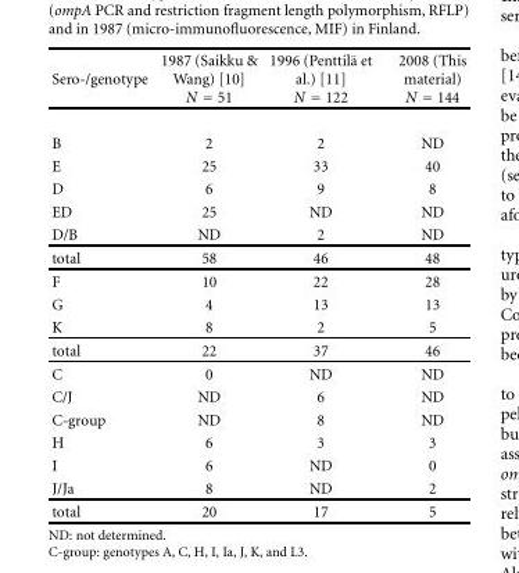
<table><thead><tr><td>Sero-/genotype</td><td>1987 (Saikku &amp; Wang) [10] N = 51</td><td>1996 (Penttil¨a et al.) [11] N = 122</td><td>2008 (This material) N = 144</td></tr></thead><tbody><tr><td>B</td><td>2</td><td>2</td><td>ND</td></tr><tr><td>E</td><td>25</td><td>33</td><td>40</td></tr><tr><td>D</td><td>6</td><td>9</td><td>8</td></tr><tr><td>ED</td><td>25</td><td>ND</td><td>ND</td></tr><tr><td>D/B</td><td>ND</td><td>2</td><td>ND</td></tr><tr><td>total</td><td>58</td><td>46</td><td>48</td></tr><tr><td>F</td><td>10</td><td>22</td><td>28</td></tr><tr><td>G</td><td>4</td><td>13</td><td>13</td></tr><tr><td>K</td><td>8</td><td>2</td><td>5</td></tr><tr><td>total</td><td>22</td><td>37</td><td>46</td></tr><tr><td>C</td><td>0</td><td>ND</td><td>ND</td></tr><tr><td>C/J</td><td>ND</td><td>6</td><td>ND</td></tr><tr><td>C-group</td><td>ND</td><td>8</td><td>ND</td></tr><tr><td>H</td><td>6</td><td>3</td><td>3</td></tr><tr><td>I</td><td>6</td><td>ND</td><td>0</td></tr><tr><td>J/Ja</td><td>8</td><td>ND</td><td>2</td></tr><tr><td>total</td><td>20</td><td>17</td><td>5</td></tr></tbody></table>